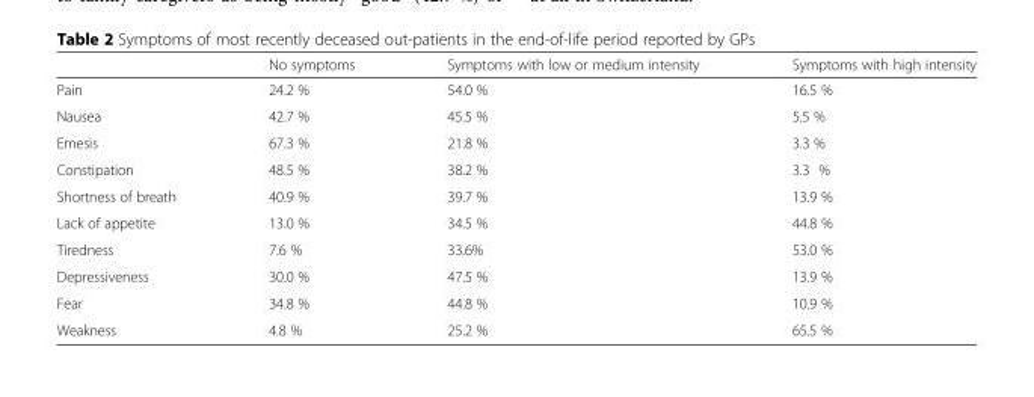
<table><thead><tr><td></td><td>No symptoms</td><td>Symptoms with low or medium intensity</td><td>Symptoms with high intensity</td></tr></thead><tbody><tr><td>Pain</td><td>24.2 %</td><td>54.0 %</td><td>16.5 %</td></tr><tr><td>Nausea</td><td>42.7 %</td><td>45.5 %</td><td>5.5 %</td></tr><tr><td>Emesis</td><td>67.3 %</td><td>21.8 %</td><td>3.3 %</td></tr><tr><td>Constipation</td><td>48.5 %</td><td>38.2 %</td><td>3.3 %</td></tr><tr><td>Shortness of breath</td><td>40.9 %</td><td>39.7 %</td><td>13.9 %</td></tr><tr><td>Lack of appetite</td><td>13.0 %</td><td>34.5 %</td><td>44.8 %</td></tr><tr><td>Tiredness</td><td>7.6 %</td><td>33.6%</td><td>53.0 %</td></tr><tr><td>Depressiveness</td><td>30.0 %</td><td>47.5 %</td><td>13.9 %</td></tr><tr><td>Fear</td><td>34.8 %</td><td>44.8 %</td><td>10.9 %</td></tr><tr><td>Weakness</td><td>4.8 %</td><td>25.2 %</td><td>65.5 %</td></tr></tbody></table>